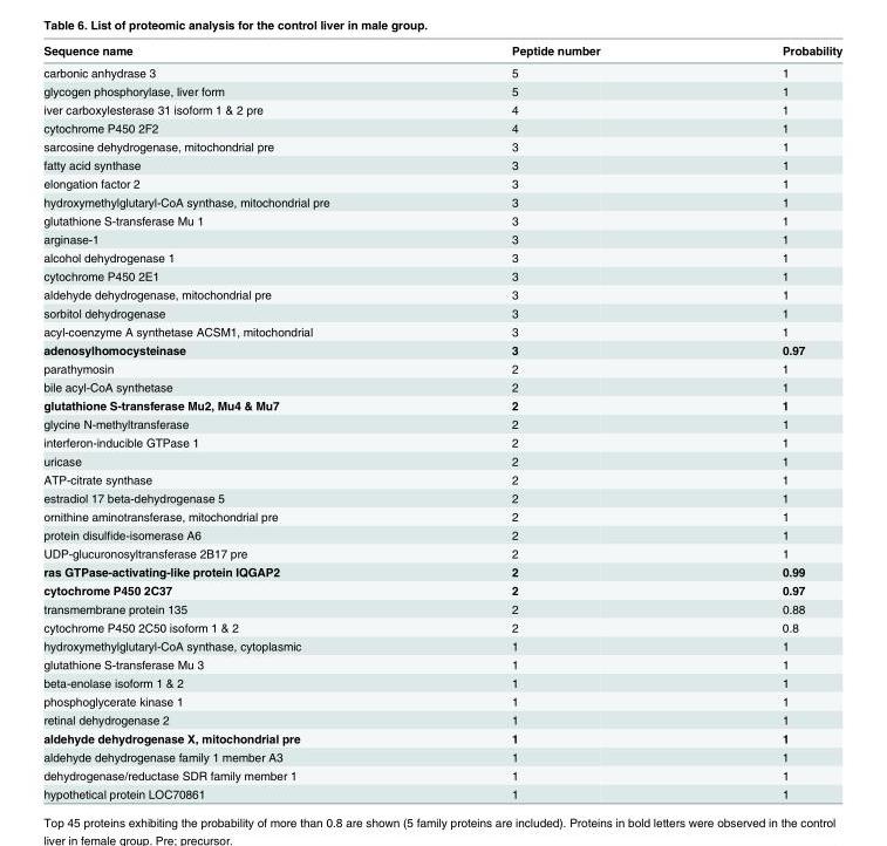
<table><thead><tr><td>Sequence name</td><td>Peptide number</td><td>Probability</td></tr></thead><tbody><tr><td>carbonic anhydrase 3</td><td>5</td><td>1</td></tr><tr><td>glycogen phosphorylase, liver form</td><td>5</td><td>1</td></tr><tr><td>iver carboxylesterase 31 isoform 1 &amp; 2 pre</td><td>4</td><td>1</td></tr><tr><td>cytochrome P450 2F2</td><td>4</td><td>1</td></tr><tr><td>sarcosine dehydrogenase, mitochondrial pre</td><td>3</td><td>1</td></tr><tr><td>fatty acid synthase</td><td>3</td><td>1</td></tr><tr><td>elongation factor 2</td><td>3</td><td>1</td></tr><tr><td>hydroxymethylglutaryl-CoA synthase, mitochondrial pre</td><td>3</td><td>1</td></tr><tr><td>glutathione S-transferase Mu 1</td><td>3</td><td>1</td></tr><tr><td>arginase-1</td><td>3</td><td>1</td></tr><tr><td>alcohol dehydrogenase 1</td><td>3</td><td>1</td></tr><tr><td>cytochrome P450 2E1</td><td>3</td><td>1</td></tr><tr><td>aldehyde dehydrogenase, mitochondrial pre</td><td>3</td><td>1</td></tr><tr><td>sorbitol dehydrogenase</td><td>3</td><td>1</td></tr><tr><td>acyl-coenzyme A synthetase ACSM1, mitochondrial</td><td>3</td><td>1</td></tr><tr><td>adenosylhomocysteinase</td><td>3</td><td>0.97</td></tr><tr><td>parathymosin</td><td>2</td><td>1</td></tr><tr><td>bile acyl-CoA synthetase</td><td>2</td><td>1</td></tr><tr><td>glutathione S-transferase Mu2, Mu4 &amp; Mu7</td><td>2</td><td>1</td></tr><tr><td>glycine N-methyltransferase</td><td>2</td><td>1</td></tr><tr><td>interferon-inducible GTPase 1</td><td>2</td><td>1</td></tr><tr><td>uricase</td><td>2</td><td>1</td></tr><tr><td>ATP-citrate synthase</td><td>2</td><td>1</td></tr><tr><td>estradiol 17 beta-dehydrogenase 5</td><td>2</td><td>1</td></tr><tr><td>ornithine aminotransferase, mitochondrial pre</td><td>2</td><td>1</td></tr><tr><td>protein disulfide-isomerase A6</td><td>2</td><td>1</td></tr><tr><td>UDP-glucuronosyltransferase 2B17 pre</td><td>2</td><td>1</td></tr><tr><td>ras GTPase-activating-like protein IQGAP2</td><td>2</td><td>0.99</td></tr><tr><td>cytochrome P450 2C37</td><td>2</td><td>0.97</td></tr><tr><td>transmembrane protein 135</td><td>2</td><td>0.88</td></tr><tr><td>cytochrome P450 2C50 isoform 1 &amp; 2</td><td>2</td><td>0.8</td></tr><tr><td>hydroxymethylglutaryl-CoA synthase, cytoplasmic</td><td>1</td><td>1</td></tr><tr><td>glutathione S-transferase Mu 3</td><td>1</td><td>1</td></tr><tr><td>beta-enolase isoform 1 &amp; 2</td><td>1</td><td>1</td></tr><tr><td>phosphoglycerate kinase 1</td><td>1</td><td>1</td></tr><tr><td>retinal dehydrogenase 2</td><td>1</td><td>1</td></tr><tr><td>aldehyde dehydrogenase X, mitochondrial pre</td><td>1</td><td>1</td></tr><tr><td>aldehyde dehydrogenase family 1 member A3</td><td>1</td><td>1</td></tr><tr><td>dehydrogenase/reductase SDR family member 1</td><td>1</td><td>1</td></tr><tr><td>hypothetical protein LOC70861</td><td>1</td><td>1</td></tr></tbody></table>